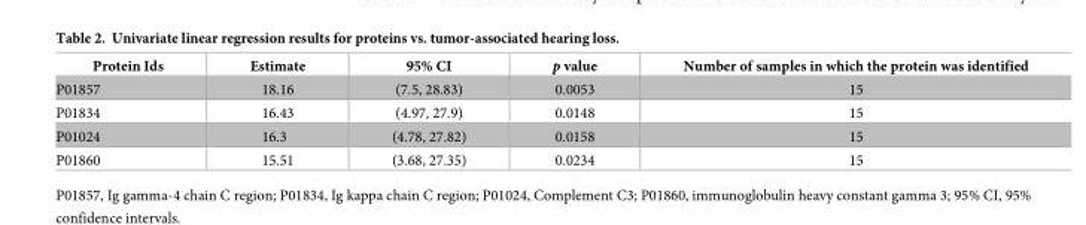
<table><thead><tr><td>Protein Ids</td><td>Estimate</td><td>95% CI</td><td>p value</td><td>Number of samples in which the protein was identified</td></tr></thead><tbody><tr><td>P01857</td><td>18.16</td><td>(7.5, 28.83)</td><td>0.0053</td><td>15</td></tr><tr><td>P01834</td><td>16.43</td><td>(4.97, 27.9)</td><td>0.0148</td><td>15</td></tr><tr><td>P01024</td><td>16.3</td><td>(4.78, 27.82)</td><td>0.0158</td><td>15</td></tr><tr><td>P01860</td><td>15.51</td><td>(3.68, 27.35)</td><td>0.0234</td><td>15</td></tr></tbody></table>